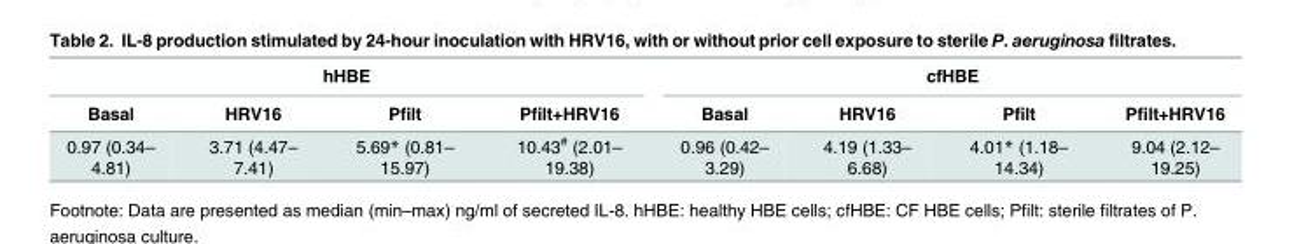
<table><thead><tr><td colspan="4">hHBE</td><td colspan="4">cfHBE</td></tr><tr><td>Basal</td><td>HRV16</td><td>Pfilt</td><td>Pfilt+HRV16</td><td>Basal</td><td>HRV16</td><td>Pfilt</td><td>Pfilt+HRV16</td></tr></thead><tbody><tr><td>0.97 (0.34– 4.81)</td><td>3.71 (4.47– 7.41)</td><td>5.69* (0.81– 15.97)</td><td>10.43<sup>#</sup> (2.01– 19.38)</td><td>0.96 (0.42– 3.29)</td><td>4.19 (1.33– 6.68)</td><td>4.01* (1.18– 14.34)</td><td>9.04 (2.12– 19.25)</td></tr></tbody></table>